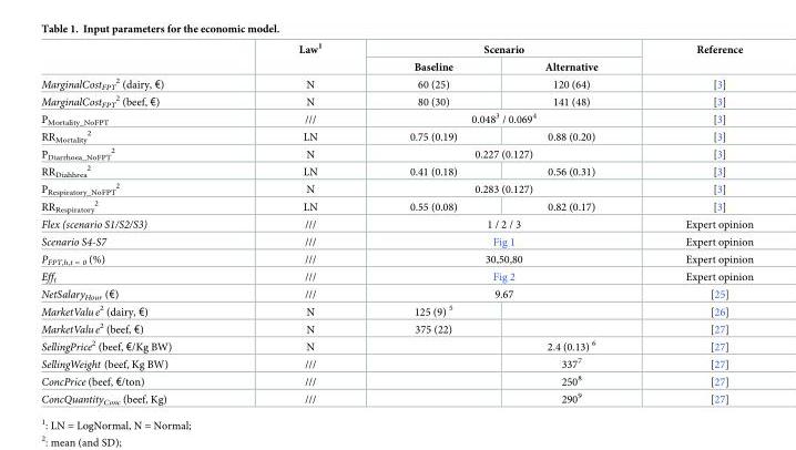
<table><thead><tr><td rowspan="2"></td><td rowspan="2">Law<sup>1</sup></td><td colspan="2">Scenario</td><td rowspan="2">Reference</td></tr><tr><td>Baseline</td><td>Alternative</td></tr></thead><tbody><tr><td>MarginalCost<sub>FPT</sub> <sup>2</sup> (dairy, €)</td><td>N</td><td>60 (25)</td><td>120 (64)</td><td>[3]</td></tr><tr><td>MarginalCost<sub>FPT</sub> <sup>2</sup> (beef, €)</td><td>N</td><td>80 (30)</td><td>141 (48)</td><td>[3]</td></tr><tr><td>P<sub>Mortality_NoFPT</sub></td><td>///</td><td colspan="2">0.048<sup>3</sup> / 0.069<sup>4</sup></td><td>[3]</td></tr><tr><td>RR<sub>Mortality</sub> <sup>2</sup></td><td>LN</td><td>0.75 (0.19)</td><td>0.88 (0.20)</td><td>[3]</td></tr><tr><td>P<sub>Diarrhoea_NoFPT</sub> <sup>2</sup></td><td>N</td><td colspan="2">0.227 (0.127)</td><td>[3]</td></tr><tr><td>RR<sub>Diahhrea</sub> <sup>2</sup></td><td>LN</td><td>0.41 (0.18)</td><td>0.56 (0.31)</td><td>[3]</td></tr><tr><td>P<sub>Respiratory_NoFPT</sub> <sup>2</sup></td><td>N</td><td colspan="2">0.283 (0.127)</td><td>[3]</td></tr><tr><td>RR<sub>Respiratory</sub> <sup>2</sup></td><td>LN</td><td>0.55 (0.08)</td><td>0.82 (0.17)</td><td>[3]</td></tr><tr><td>Flex (scenario S1/S2/S3)</td><td>///</td><td colspan="2">1 / 2 / 3</td><td>Expert opinion</td></tr><tr><td>Scenario S4-S7</td><td>///</td><td colspan="2">Fig 1</td><td>Expert opinion</td></tr><tr><td>P<sub>FPT,h,t = 0</sub> (%)</td><td>///</td><td colspan="2">30,50,80</td><td>Expert opinion</td></tr><tr><td>Eff<sub>t</sub></td><td>///</td><td colspan="2">Fig 2</td><td>Expert opinion</td></tr><tr><td>NetSalary<sub>Hour</sub> (€)</td><td>///</td><td colspan="2">9.67</td><td>[25]</td></tr><tr><td>MarketValue<sup>2</sup> (dairy, €)</td><td>N</td><td>125 (9) <sup>5</sup></td><td></td><td>[26]</td></tr><tr><td>MarketValue<sup>2</sup> (beef, €)</td><td>N</td><td>375 (22)</td><td></td><td>[27]</td></tr><tr><td>SellingPrice<sup>2</sup> (beef, €/Kg BW)</td><td>N</td><td></td><td>2.4 (0.13) <sup>6</sup></td><td>[27]</td></tr><tr><td>SellingWeight (beef, Kg BW)</td><td>///</td><td></td><td>337<sup>7</sup></td><td>[27]</td></tr><tr><td>ConcPrice (beef, €/ton)</td><td>///</td><td></td><td>250<sup>8</sup></td><td>[27]</td></tr><tr><td>ConcQuantity<sub>Conc</sub> (beef, Kg)</td><td>///</td><td></td><td>290<sup>9</sup></td><td>[27]</td></tr></tbody></table>